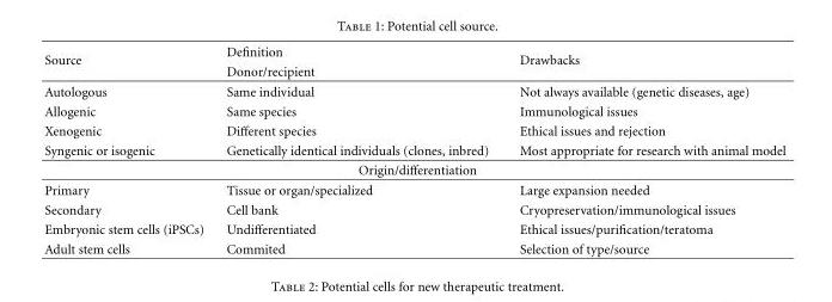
<table><thead><tr><td rowspan="2">Source</td><td rowspan="2">Definition Donor/recipient</td><td rowspan="2">Drawbacks</td></tr><tr></tr></thead><tbody><tr><td>Autologous</td><td>Same individual</td><td>Not always available (genetic diseases, age)</td></tr><tr><td>Allogenic</td><td>Same species</td><td>Immunological issues</td></tr><tr><td>Xenogenic</td><td>Different species</td><td>Ethical issues and rejection</td></tr><tr><td>Syngenic or isogenic</td><td>Genetically identical individuals (clones, inbred)</td><td>Most appropriate for research with animal model</td></tr><tr><td colspan="3">Origin/differentiation</td></tr><tr><td>Primary</td><td>Tissue or organ/specialized</td><td>Large expansion needed</td></tr><tr><td>Secondary</td><td>Cell bank</td><td>Cryopreservation/immunological issues</td></tr><tr><td>Embryonic stem cells (iPSCs)</td><td>Undifferentiated</td><td>Ethical issues/purification/teratoma</td></tr><tr><td>Adult stem cells</td><td>Commited</td><td>Selection of type/source</td></tr></tbody></table>